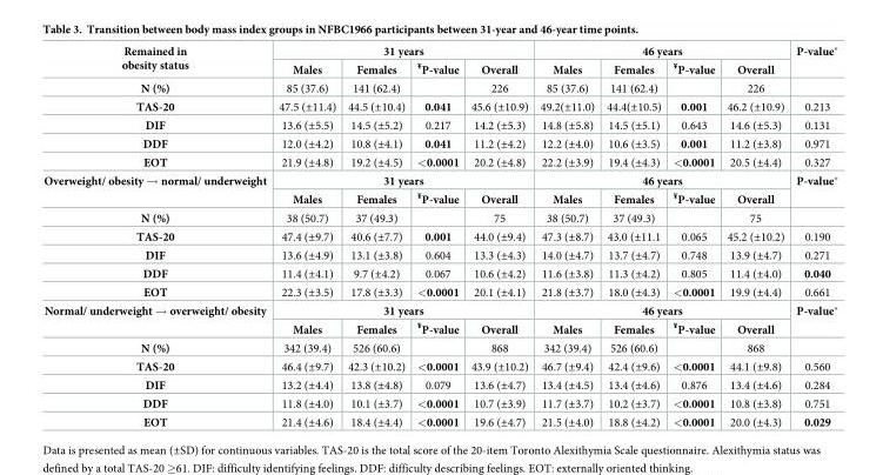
<table><tbody><tr><td rowspan="2">Remained in obesity status</td><td colspan="4">31 years</td><td colspan="4">46 years</td><td rowspan="2">P-value*</td></tr><tr><td>Males</td><td>Females</td><td><sup>¥</sup>P-value</td><td>Overall</td><td>Males</td><td>Females</td><td><sup>¥</sup>P-value</td><td>Overall</td></tr><tr><td>N (%)</td><td>85 (37.6)</td><td>141 (62.4)</td><td></td><td>226</td><td>85 (37.6)</td><td>141 (62.4)</td><td></td><td>226</td><td></td></tr><tr><td>TAS-20</td><td>47.5 (±11.4)</td><td>44.5 (±10.4)</td><td>0.041</td><td>45.6 (±10.9)</td><td>49.2(±11.0)</td><td>44.4(±10.5)</td><td>0.001</td><td>46.2 (±10.9)</td><td>0.213</td></tr><tr><td>DIF</td><td>13.6 (±5.5)</td><td>14.5 (±5.2)</td><td>0.217</td><td>14.2 (±5.3)</td><td>14.8 (±5.8)</td><td>14.5 (±5.1)</td><td>0.643</td><td>14.6 (±5.3)</td><td>0.131</td></tr><tr><td>DDF</td><td>12.0 (±4.2)</td><td>10.8 (±4.1)</td><td>0.041</td><td>11.2 (±4.2)</td><td>12.2 (±4.0)</td><td>10.6 (±3.5)</td><td>0.001</td><td>11.2 (±3.8)</td><td>0.971</td></tr><tr><td>EOT</td><td>21.9 (±4.8)</td><td>19.2 (±4.5)</td><td>&lt;0.0001</td><td>20.2 (±4.8)</td><td>22.2 (±3.9)</td><td>19.4 (±4.3)</td><td>&lt;0.0001</td><td>20.5 (±4.4)</td><td>0.327</td></tr><tr><td rowspan="2">Overweight/ obesity → normal/ underweight</td><td colspan="4">31 years</td><td colspan="4">46 years</td><td rowspan="2">P-value*</td></tr><tr><td>Males</td><td>Females</td><td><sup>¥</sup>P-value</td><td>Overall</td><td>Males</td><td>Females</td><td><sup>¥</sup>P-value</td><td>Overall</td></tr><tr><td>N (%)</td><td>38 (50.7)</td><td>37 (49.3)</td><td></td><td>75</td><td>38 (50.7)</td><td>37 (49.3)</td><td></td><td>75</td><td></td></tr><tr><td>TAS-20</td><td>47.4 (±9.7)</td><td>40.6 (±7.7)</td><td>0.001</td><td>44.0 (±9.4)</td><td>47.3 (±8.7)</td><td>43.0 (±11.1</td><td>0.065</td><td>45.2 (±10.2)</td><td>0.190</td></tr><tr><td>DIF</td><td>13.6 (±4.9)</td><td>13.1 (±3.8)</td><td>0.604</td><td>13.3 (±4.3)</td><td>14.0 (±4.7)</td><td>13.7 (±4.7)</td><td>0.748</td><td>13.9 (±4.7)</td><td>0.271</td></tr><tr><td>DDF</td><td>11.4 (±4.1)</td><td>9.7 (±4.2)</td><td>0.067</td><td>10.6 (±4.2)</td><td>11.6 (±3.8)</td><td>11.3 (±4.2)</td><td>0.805</td><td>11.4 (±4.0)</td><td>0.040</td></tr><tr><td>EOT</td><td>22.3 (±3.5)</td><td>17.8 (±3.3)</td><td>&lt;0.0001</td><td>20.1 (±4.1)</td><td>21.8 (±3.7)</td><td>18.0 (±4.3)</td><td>&lt;0.0001</td><td>19.9 (±4.4)</td><td>0.661</td></tr><tr><td rowspan="2">Normal/ underweight → overweight/ obesity</td><td colspan="4">31 years</td><td colspan="4">46 years</td><td rowspan="2">P-value*</td></tr><tr><td>Males</td><td>Females</td><td><sup>¥</sup>P-value</td><td>Overall</td><td>Males</td><td>Females</td><td><sup>¥</sup>P-value</td><td>Overall</td></tr><tr><td>N (%)</td><td>342 (39.4)</td><td>526 (60.6)</td><td></td><td>868</td><td>342 (39.4)</td><td>526 (60.6)</td><td></td><td>868</td><td></td></tr><tr><td>TAS-20</td><td>46.4 (±9.7)</td><td>42.3 (±10.2)</td><td>&lt;0.0001</td><td>43.9 (±10.2)</td><td>46.7 (±9.4)</td><td>42.4 (±9.6)</td><td>&lt;0.0001</td><td>44.1 (±9.8)</td><td>0.560</td></tr><tr><td>DIF</td><td>13.2 (±4.4)</td><td>13.8 (±4.8)</td><td>0.079</td><td>13.6 (±4.7)</td><td>13.4 (±4.5)</td><td>13.4 (±4.6)</td><td>0.876</td><td>13.4 (±4.6)</td><td>0.284</td></tr><tr><td>DDF</td><td>11.8 (±4.0)</td><td>10.1 (±3.7)</td><td>&lt;0.0001</td><td>10.7 (±3.9)</td><td>11.7 (±3.7)</td><td>10.2 (±3.7)</td><td>&lt;0.0001</td><td>10.8 (±3.8)</td><td>0.751</td></tr><tr><td>EOT</td><td>21.4 (±4.6)</td><td>18.4 (±4.4)</td><td>&lt;0.0001</td><td>19.6 (±4.7)</td><td>21.5 (±4.0)</td><td>18.8 (±4.2)</td><td>&lt;0.0001</td><td>20.0 (±4.3)</td><td>0.029</td></tr></tbody></table>